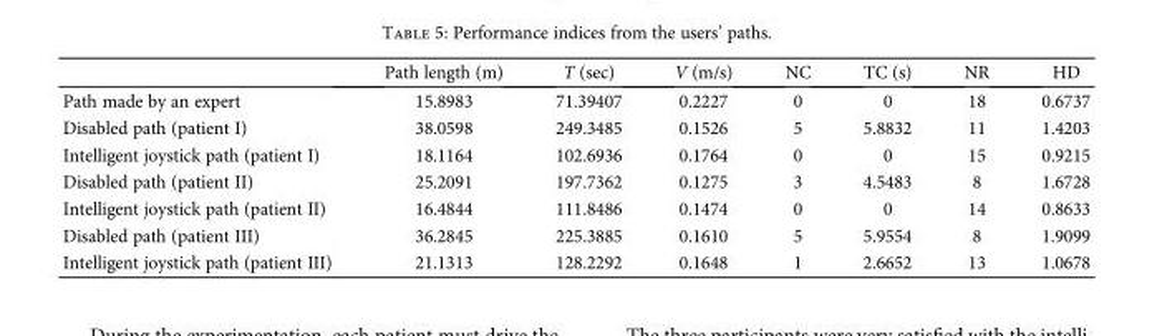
<table><thead><tr><td></td><td>Path length (m)</td><td>T (sec)</td><td>V (m/s)</td><td>NC</td><td>TC (s)</td><td>NR</td><td>HD</td></tr></thead><tbody><tr><td>Path made by an expert</td><td>15.8983</td><td>71.39407</td><td>0.2227</td><td>0</td><td>0</td><td>18</td><td>0.6737</td></tr><tr><td>Disabled path (patient I)</td><td>38.0598</td><td>249.3485</td><td>0.1526</td><td>5</td><td>5.8832</td><td>11</td><td>1.4203</td></tr><tr><td>Intelligent joystick path (patient I)</td><td>18.1164</td><td>102.6936</td><td>0.1764</td><td>0</td><td>0</td><td>15</td><td>0.9215</td></tr><tr><td>Disabled path (patient II)</td><td>25.2091</td><td>197.7362</td><td>0.1275</td><td>3</td><td>4.5483</td><td>8</td><td>1.6728</td></tr><tr><td>Intelligent joystick path (patient II)</td><td>16.4844</td><td>111.8486</td><td>0.1474</td><td>0</td><td>0</td><td>14</td><td>0.8633</td></tr><tr><td>Disabled path (patient III)</td><td>36.2845</td><td>225.3885</td><td>0.1610</td><td>5</td><td>5.9554</td><td>8</td><td>1.9099</td></tr><tr><td>Intelligent joystick path (patient III)</td><td>21.1313</td><td>128.2292</td><td>0.1648</td><td>1</td><td>2.6652</td><td>13</td><td>1.0678</td></tr></tbody></table>